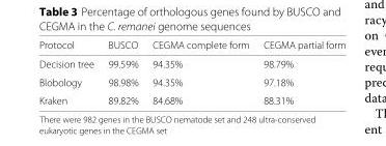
<table><thead><tr><td>Protocol</td><td>BUSCO</td><td>CEGMA complete form</td><td>CEGMA partial form</td></tr></thead><tbody><tr><td>Decision tree</td><td>99.59%</td><td>94.35%</td><td>98.79%</td></tr><tr><td>Blobology</td><td>98.98%</td><td>94.35%</td><td>97.18%</td></tr><tr><td>Kraken</td><td>89.82%</td><td>84.68%</td><td>88.31%</td></tr></tbody></table>